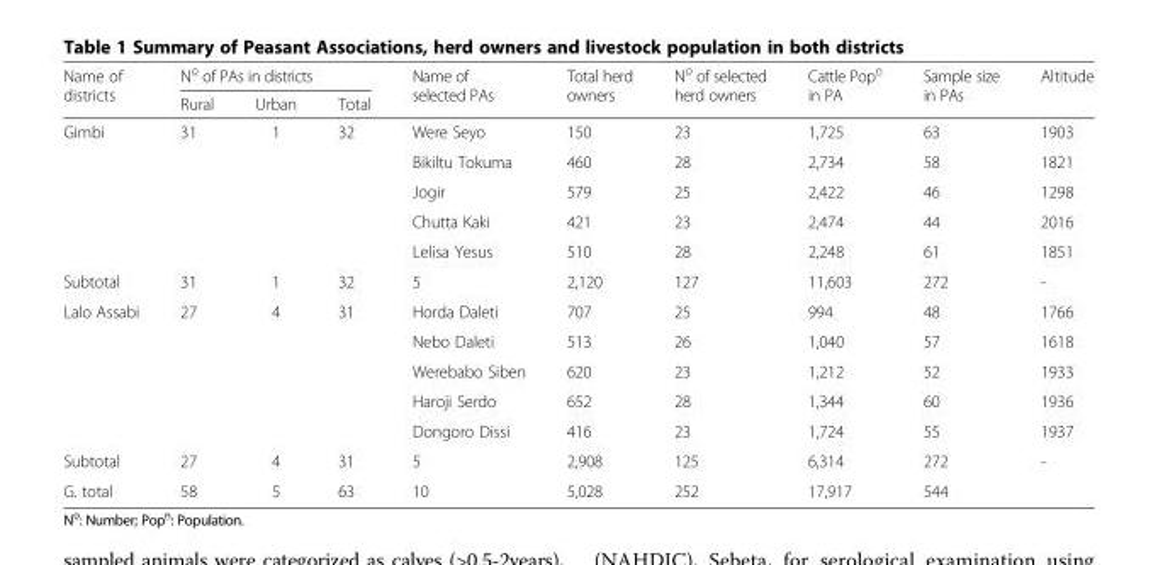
<table><thead><tr><td rowspan="2">Name of districts</td><td colspan="3">N�o of PAs in districts</td><td rowspan="2">Name of selected PAs</td><td rowspan="2">Total herd owners</td><td rowspan="2">N�o of selected herd owners</td><td rowspan="2">Cattle Pop�n in PA</td><td rowspan="2">Sample size in PAs</td><td rowspan="2">Altitude</td></tr><tr><td>Rural</td><td>Urban</td><td>Total</td></tr></thead><tbody><tr><td rowspan="5">Gimbi</td><td rowspan="5">31</td><td rowspan="5">1</td><td rowspan="5">32</td><td>Were Seyo</td><td>150</td><td>23</td><td>1,725</td><td>63</td><td>1903</td></tr><tr><td>Bikiltu Tokuma</td><td>460</td><td>28</td><td>2,734</td><td>58</td><td>1821</td></tr><tr><td>Jogir</td><td>579</td><td>25</td><td>2,422</td><td>46</td><td>1298</td></tr><tr><td>Chutta Kaki</td><td>421</td><td>23</td><td>2,474</td><td>44</td><td>2016</td></tr><tr><td>Lelisa Yesus</td><td>510</td><td>28</td><td>2,248</td><td>61</td><td>1851</td></tr><tr><td>Subtotal</td><td>31</td><td>1</td><td>32</td><td>5</td><td>2,120</td><td>127</td><td>11,603</td><td>272</td><td>-</td></tr><tr><td rowspan="5">Lalo Assabi</td><td rowspan="5">27</td><td rowspan="5">4</td><td rowspan="5">31</td><td>Horda Daleti</td><td>707</td><td>25</td><td>994</td><td>48</td><td>1766</td></tr><tr><td>Nebo Daleti</td><td>513</td><td>26</td><td>1,040</td><td>57</td><td>1618</td></tr><tr><td>Werebabo Siben</td><td>620</td><td>23</td><td>1,212</td><td>52</td><td>1933</td></tr><tr><td>Haroji Serdo</td><td>652</td><td>28</td><td>1,344</td><td>60</td><td>1936</td></tr><tr><td>Dongoro Dissi</td><td>416</td><td>23</td><td>1,724</td><td>55</td><td>1937</td></tr><tr><td>Subtotal</td><td>27</td><td>4</td><td>31</td><td>5</td><td>2,908</td><td>125</td><td>6,314</td><td>272</td><td>-</td></tr><tr><td>G. total</td><td>58</td><td>5</td><td>63</td><td>10</td><td>5,028</td><td>252</td><td>17,917</td><td>544</td><td></td></tr></tbody></table>